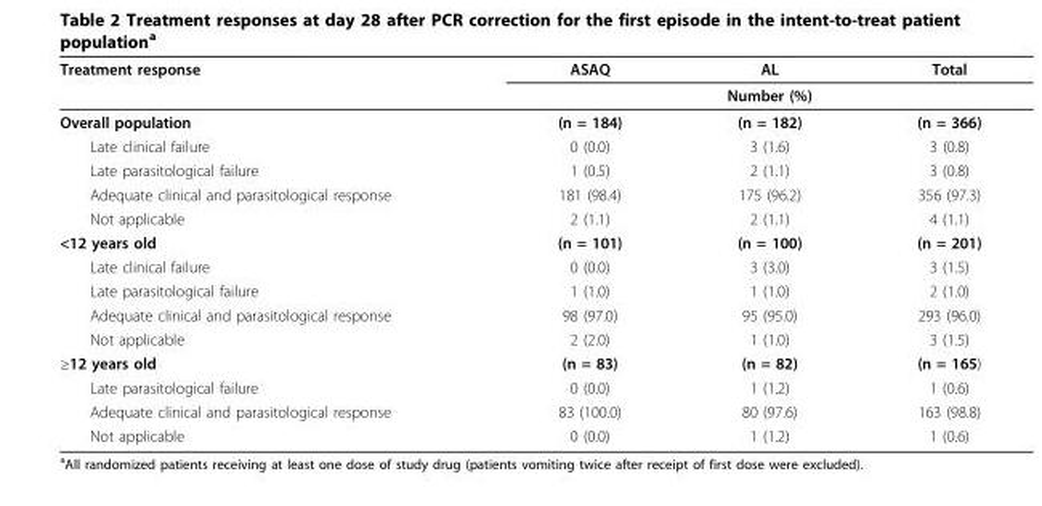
<table><thead><tr><td rowspan="2">Treatment response</td><td>ASAQ</td><td>AL</td><td>Total</td></tr><tr><td colspan="3">Number (%)</td></tr></thead><tbody><tr><td>Overall population</td><td>(n = 184)</td><td>(n = 182)</td><td>(n = 366)</td></tr><tr><td>Late clinical failure</td><td>0 (0.0)</td><td>3 (1.6)</td><td>3 (0.8)</td></tr><tr><td>Late parasitological failure</td><td>1 (0.5)</td><td>2 (1.1)</td><td>3 (0.8)</td></tr><tr><td>Adequate clinical and parasitological response</td><td>181 (98.4)</td><td>175 (96.2)</td><td>356 (97.3)</td></tr><tr><td>Not applicable</td><td>2 (1.1)</td><td>2 (1.1)</td><td>4 (1.1)</td></tr><tr><td>&lt;12 years old</td><td>(n = 101)</td><td>(n = 100)</td><td>(n = 201)</td></tr><tr><td>Late clinical failure</td><td>0 (0.0)</td><td>3 (3.0)</td><td>3 (1.5)</td></tr><tr><td>Late parasitological failure</td><td>1 (1.0)</td><td>1 (1.0)</td><td>2 (1.0)</td></tr><tr><td>Adequate clinical and parasitological response</td><td>98 (97.0)</td><td>95 (95.0)</td><td>293 (96.0)</td></tr><tr><td>Not applicable</td><td>2 (2.0)</td><td>1 (1.0)</td><td>3 (1.5)</td></tr><tr><td>≥12 years old</td><td>(n = 83)</td><td>(n = 82)</td><td>(n = 165)</td></tr><tr><td>Late parasitological failure</td><td>0 (0.0)</td><td>1 (1.2)</td><td>1 (0.6)</td></tr><tr><td>Adequate clinical and parasitological response</td><td>83 (100.0)</td><td>80 (97.6)</td><td>163 (98.8)</td></tr><tr><td>Not applicable</td><td>0 (0.0)</td><td>1 (1.2)</td><td>1 (0.6)</td></tr></tbody></table>